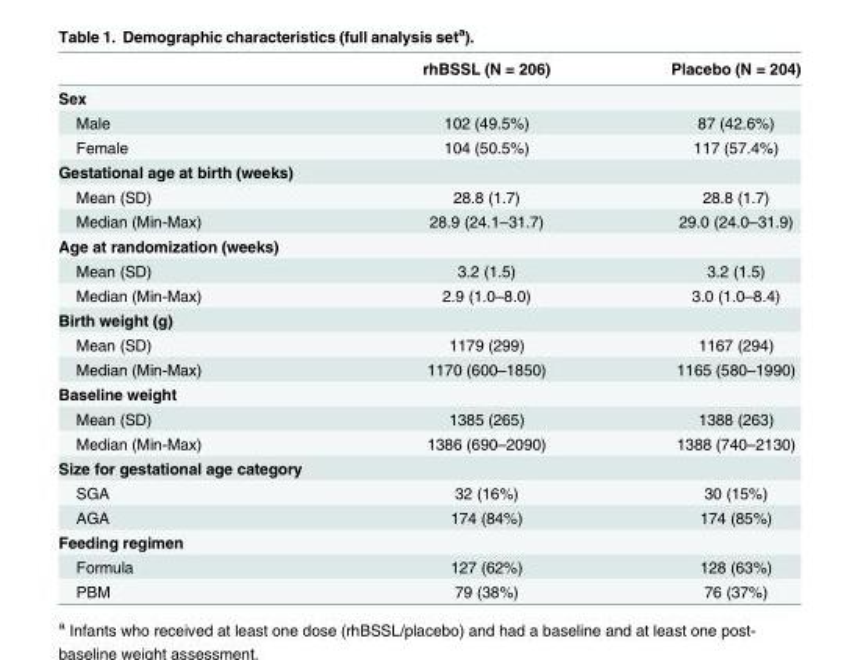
<table><thead><tr><td></td><td>rhBSSL (N = 206)</td><td>Placebo (N = 204)</td></tr></thead><tbody><tr><td colspan="3">Sex</td></tr><tr><td>Male</td><td>102 (49.5%)</td><td>87 (42.6%)</td></tr><tr><td>Female</td><td>104 (50.5%)</td><td>117 (57.4%)</td></tr><tr><td colspan="3">Gestational age at birth (weeks)</td></tr><tr><td>Mean (SD)</td><td>28.8 (1.7)</td><td>28.8 (1.7)</td></tr><tr><td>Median (Min-Max)</td><td>28.9 (24.1–31.7)</td><td>29.0 (24.0–31.9)</td></tr><tr><td colspan="3">Age at randomization (weeks)</td></tr><tr><td>Mean (SD)</td><td>3.2 (1.5)</td><td>3.2 (1.5)</td></tr><tr><td>Median (Min-Max)</td><td>2.9 (1.0–8.0)</td><td>3.0 (1.0–8.4)</td></tr><tr><td colspan="3">Birth weight (g)</td></tr><tr><td>Mean (SD)</td><td>1179 (299)</td><td>1167 (294)</td></tr><tr><td>Median (Min-Max)</td><td>1170 (600–1850)</td><td>1165 (580–1990)</td></tr><tr><td colspan="3">Baseline weight</td></tr><tr><td>Mean (SD)</td><td>1385 (265)</td><td>1388 (263)</td></tr><tr><td>Median (Min-Max)</td><td>1386 (690–2090)</td><td>1388 (740–2130)</td></tr><tr><td colspan="3">Size for gestational age category</td></tr><tr><td>SGA</td><td>32 (16%)</td><td>30 (15%)</td></tr><tr><td>AGA</td><td>174 (84%)</td><td>174 (85%)</td></tr><tr><td colspan="3">Feeding regimen</td></tr><tr><td>Formula</td><td>127 (62%)</td><td>128 (63%)</td></tr><tr><td>PBM</td><td>79 (38%)</td><td>76 (37%)</td></tr></tbody></table>